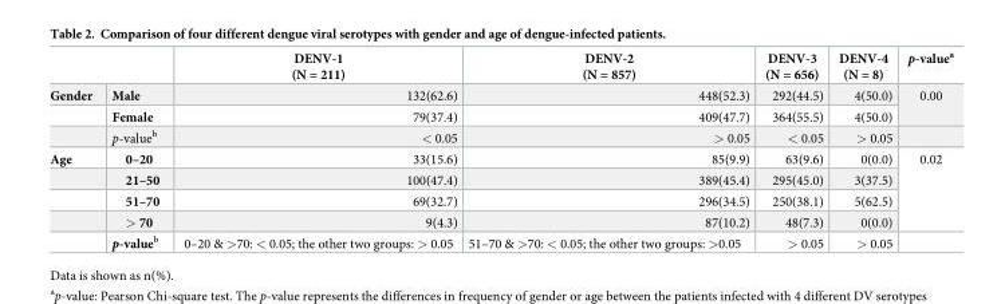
<table><thead><tr><td></td><td></td><td>DENV-1 (N = 211)</td><td>DENV-2 (N = 857)</td><td>DENV-3 (N = 656)</td><td>DENV-4 (N = 8)</td><td>p-value<sup>a</sup></td></tr></thead><tbody><tr><td rowspan="3">Gender</td><td>Male</td><td>132(62.6)</td><td>448(52.3)</td><td>292(44.5)</td><td>4(50.0)</td><td rowspan="2">0.00</td></tr><tr><td>Female</td><td>79(37.4)</td><td>409(47.7)</td><td>364(55.5)</td><td>4(50.0)</td></tr><tr><td>p-value<sup>b</sup></td><td>&lt; 0.05</td><td>&gt; 0.05</td><td>&lt; 0.05</td><td>&gt; 0.05</td><td></td></tr><tr><td rowspan="5">Age</td><td>0–20</td><td>33(15.6)</td><td>85(9.9)</td><td>63(9.6)</td><td>0(0.0)</td><td rowspan="4">0.02</td></tr><tr><td>21–50</td><td>100(47.4)</td><td>389(45.4)</td><td>295(45.0)</td><td>3(37.5)</td></tr><tr><td>51–70</td><td>69(32.7)</td><td>296(34.5)</td><td>250(38.1)</td><td>5(62.5)</td></tr><tr><td>&gt; 70</td><td>9(4.3)</td><td>87(10.2)</td><td>48(7.3)</td><td>0(0.0)</td></tr><tr><td>p-value<sup>b</sup></td><td>0–20 &amp; &gt;70: &lt; 0.05; the other two groups: &gt; 0.05</td><td>51–70 &amp; &gt;70: &lt; 0.05; the other two groups: &gt;0.05</td><td>&gt; 0.05</td><td>&gt; 0.05</td><td></td></tr></tbody></table>